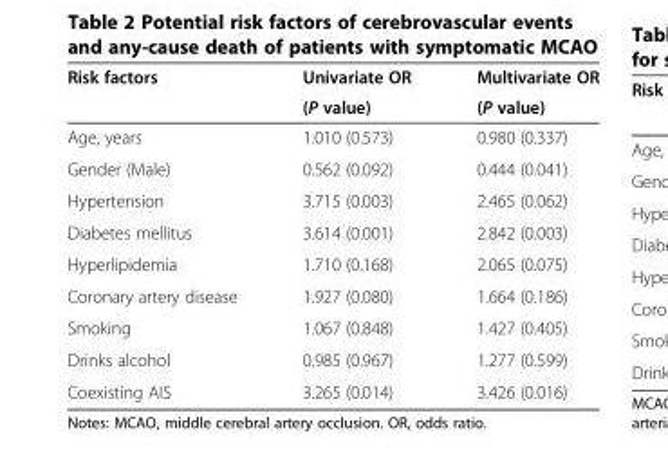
<table><thead><tr><td rowspan="2">Risk factors</td><td rowspan="2">Univariate OR (P value)</td><td rowspan="2">Multivariate OR (P value)</td></tr><tr></tr></thead><tbody><tr><td>Age, years</td><td>1.010 (0.573)</td><td>0.980 (0.337)</td></tr><tr><td>Gender (Male)</td><td>0.562 (0.092)</td><td>0.444 (0.041)</td></tr><tr><td>Hypertension</td><td>3.715 (0.003)</td><td>2.465 (0.062)</td></tr><tr><td>Diabetes mellitus</td><td>3.614 (0.001)</td><td>2.842 (0.003)</td></tr><tr><td>Hyperlipidemia</td><td>1.710 (0.168)</td><td>2.065 (0.075)</td></tr><tr><td>Coronary artery disease</td><td>1.927 (0.080)</td><td>1.664 (0.186)</td></tr><tr><td>Smoking</td><td>1.067 (0.848)</td><td>1.427 (0.405)</td></tr><tr><td>Drinks alcohol</td><td>0.985 (0.967)</td><td>1.277 (0.599)</td></tr><tr><td>Coexisting AIS</td><td>3.265 (0.014)</td><td>3.426 (0.016)</td></tr></tbody></table>